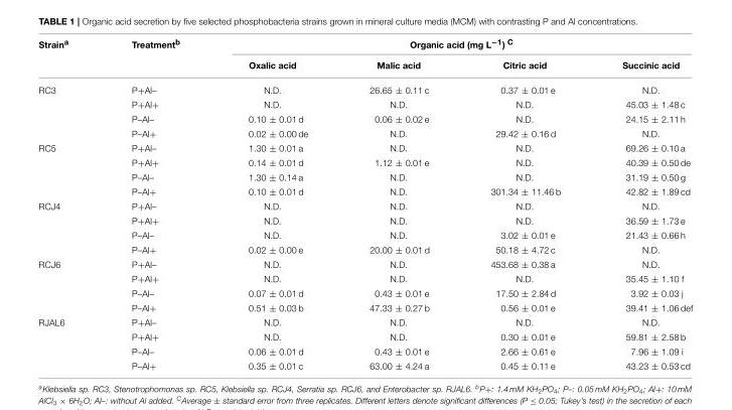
<table><thead><tr><td rowspan="2">Strain<sup>a</sup></td><td rowspan="2">Treatment<sup>b</sup></td><td colspan="4">Organic acid (mg L<sup>−1</sup>) <sup>C</sup></td></tr><tr><td>Oxalic acid</td><td>Malic acid</td><td>Citric acid</td><td>Succinic acid</td></tr></thead><tbody><tr><td rowspan="4">RC3</td><td>P+Al–</td><td>N.D.</td><td>26.65 ± 0.11 c</td><td>0.37 ± 0.01 e</td><td>N.D.</td></tr><tr><td>P+Al+</td><td>N.D.</td><td>N.D.</td><td>N.D.</td><td>45.03 ± 1.48 c</td></tr><tr><td>P–Al–</td><td>0.10 ± 0.01 d</td><td>0.06 ± 0.02 e</td><td>N.D.</td><td>24.15 ± 2.11 h</td></tr><tr><td>P–Al+</td><td>0.02 ± 0.00 de</td><td>N.D.</td><td>29.42 ± 0.16 d</td><td>N.D.</td></tr><tr><td rowspan="4">RC5</td><td>P+Al–</td><td>1.30 ± 0.01 a</td><td>N.D.</td><td>N.D.</td><td>69.26 ± 0.10 a</td></tr><tr><td>P+Al+</td><td>0.14 ± 0.01 d</td><td>1.12 ± 0.01 e</td><td>N.D.</td><td>40.39 ± 0.50 de</td></tr><tr><td>P–Al–</td><td>1.30 ± 0.14 a</td><td>N.D.</td><td>N.D.</td><td>31.19 ± 0.50 g</td></tr><tr><td>P–Al+</td><td>0.10 ± 0.01 d</td><td>N.D.</td><td>301.34 ± 11.46 b</td><td>42.82 ± 1.89 cd</td></tr><tr><td rowspan="4">RCJ4</td><td>P+Al–</td><td>N.D.</td><td>N.D.</td><td>N.D.</td><td>N.D.</td></tr><tr><td>P+Al+</td><td>N.D.</td><td>N.D.</td><td>N.D.</td><td>36.59 ± 1.73 e</td></tr><tr><td>P–Al–</td><td>N.D.</td><td>N.D.</td><td>3.02 ± 0.01 e</td><td>21.43 ± 0.66 h</td></tr><tr><td>P–Al+</td><td>0.02 ± 0.00 e</td><td>20.00 ± 0.01 d</td><td>50.18 ± 4.72 c</td><td>N.D.</td></tr><tr><td rowspan="4">RCJ6</td><td>P+Al–</td><td>N.D.</td><td>N.D.</td><td>453.68 ± 0.38 a</td><td>N.D.</td></tr><tr><td>P+Al+</td><td>N.D.</td><td>N.D.</td><td>N.D.</td><td>35.45 ± 1.10 f</td></tr><tr><td>P–Al–</td><td>0.07 ± 0.01 d</td><td>0.43 ± 0.01 e</td><td>17.50 ± 2.84 d</td><td>3.92 ± 0.03 j</td></tr><tr><td>P–Al+</td><td>0.51 ± 0.03 b</td><td>47.33 ± 0.27 b</td><td>0.56 ± 0.01 e</td><td>39.41 ± 1.06 def</td></tr><tr><td rowspan="4">RJAL6</td><td>P+Al–</td><td>N.D.</td><td>N.D.</td><td>N.D.</td><td>N.D.</td></tr><tr><td>P+Al+</td><td>N.D.</td><td>N.D.</td><td>0.30 ± 0.01 e</td><td>59.81 ± 2.58 b</td></tr><tr><td>P–Al–</td><td>0.06 ± 0.01 d</td><td>0.43 ± 0.01 e</td><td>2.66 ± 0.61 e</td><td>7.96 ± 1.09 i</td></tr><tr><td>P–Al+</td><td>0.35 ± 0.01 c</td><td>63.00 ± 4.24 a</td><td>0.45 ± 0.11 e</td><td>43.23 ± 0.53 cd</td></tr></tbody></table>